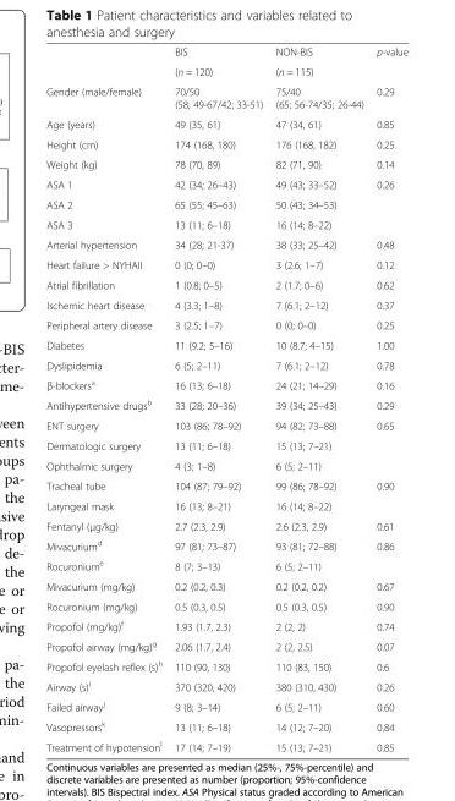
<table><thead><tr><td></td><td>BIS</td><td>NON-BIS</td><td>p-value</td></tr></thead><tbody><tr><td></td><td>(n = 120)</td><td>(n = 115)</td><td></td></tr><tr><td>Gender (male/female)</td><td>70/50 (58; 49-67/42; 33-51)</td><td>75/40 (65; 56-74/35; 26-44)</td><td>0.29</td></tr><tr><td>Age (years)</td><td>49 (35, 61)</td><td>47 (34, 61)</td><td>0.85</td></tr><tr><td>Height (cm)</td><td>174 (168, 180)</td><td>176 (168, 182)</td><td>0.25</td></tr><tr><td>Weight (kg)</td><td>78 (70, 89)</td><td>82 (71, 90)</td><td>0.14</td></tr><tr><td>ASA 1</td><td>42 (34; 26–43)</td><td>49 (43; 33–52)</td><td>0.26</td></tr><tr><td>ASA 2</td><td>65 (55; 45–63)</td><td>50 (43; 34–53)</td><td></td></tr><tr><td>ASA 3</td><td>13 (11; 6–18)</td><td>16 (14; 8–22)</td><td></td></tr><tr><td>Arterial hypertension</td><td>34 (28; 21-37)</td><td>38 (33; 25–42)</td><td>0.48</td></tr><tr><td>Heart failure &gt; NYHAII</td><td>0 (0; 0–0)</td><td>3 (2.6; 1–7)</td><td>0.12</td></tr><tr><td>Atrial fibrillation</td><td>1 (0.8; 0–5)</td><td>2 (1.7; 0–6)</td><td>0.62</td></tr><tr><td>Ischemic heart disease</td><td>4 (3.3; 1–8)</td><td>7 (6.1; 2–12)</td><td>0.37</td></tr><tr><td>Peripheral artery disease</td><td>3 (2.5; 1–7)</td><td>0 (0; 0–0)</td><td>0.25</td></tr><tr><td>Diabetes</td><td>11 (9.2; 5–16)</td><td>10 (8.7; 4–15)</td><td>1.00</td></tr><tr><td>Dyslipidemia</td><td>6 (5; 2–11)</td><td>7 (6.1; 2–12)</td><td>0.78</td></tr><tr><td>β-blockers<sup>a</sup></td><td>16 (13; 6–18)</td><td>24 (21; 14–29)</td><td>0.16</td></tr><tr><td>Antihypertensive drugs<sup>b</sup></td><td>33 (28; 20–36)</td><td>39 (34; 25–43)</td><td>0.29</td></tr><tr><td>ENT surgery</td><td>103 (86; 78–92)</td><td>94 (82; 73–88)</td><td>0.65</td></tr><tr><td>Dermatologic surgery</td><td>13 (11; 6–18)</td><td>15 (13; 7–21)</td><td></td></tr><tr><td>Ophthalmic surgery</td><td>4 (3; 1–8)</td><td>6 (5; 2–11)</td><td></td></tr><tr><td>Tracheal tube</td><td>104 (87; 79–92)</td><td>99 (86; 78–92)</td><td>0.90</td></tr><tr><td>Laryngeal mask</td><td>16 (13; 8–21)</td><td>16 (14; 8–22)</td><td></td></tr><tr><td>Fentanyl (μg/kg)</td><td>2.7 (2.3, 2.9)</td><td>2.6 (2.3, 2.9)</td><td>0.61</td></tr><tr><td>Mivacurium<sup>d</sup></td><td>97 (81; 73–87)</td><td>93 (81; 72–88)</td><td>0.86</td></tr><tr><td>Rocuronium<sup>e</sup></td><td>8 (7; 3–13)</td><td>6 (5; 2–11)</td><td></td></tr><tr><td>Mivacurium (mg/kg)</td><td>0.2 (0.2, 0.3)</td><td>0.2 (0.2, 0.2)</td><td>0.67</td></tr><tr><td>Rocuronium (mg/kg)</td><td>0.5 (0.3, 0.5)</td><td>0.5 (0.3, 0.5)</td><td>0.90</td></tr><tr><td>Propofol (mg/kg)<sup>f</sup></td><td>1.93 (1.7, 2.3)</td><td>2 (2, 2)</td><td>0.74</td></tr><tr><td>Propofol airway (mg/kg)<sup>g</sup></td><td>2.06 (1.7, 2.4)</td><td>2 (2, 2.5)</td><td>0.07</td></tr><tr><td>Propofol eyelash reflex (s)<sup>h</sup></td><td>110 (90, 130)</td><td>110 (83, 150)</td><td>0.6</td></tr><tr><td>Airway (s)<sup>i</sup></td><td>370 (320, 420)</td><td>380 (310, 430)</td><td>0.26</td></tr><tr><td>Failed airway<sup>j</sup></td><td>9 (8; 3–14)</td><td>6 (5; 2–11)</td><td>0.60</td></tr><tr><td>Vasopressors<sup>k</sup></td><td>13 (11; 6–18)</td><td>14 (12; 7–20)</td><td>0.84</td></tr><tr><td>Treatment of hypotension<sup>l</sup></td><td>17 (14; 7–19)</td><td>15 (13; 7–21)</td><td>0.85</td></tr></tbody></table>